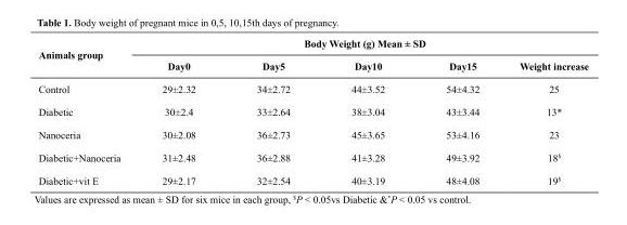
<table><thead><tr><td rowspan="2">Animals group</td><td colspan="5">Body Weight )g) Mean ± SD</td></tr><tr><td>Day0</td><td>Day5</td><td>Day10</td><td>Day15</td><td>Weight increase</td></tr></thead><tbody><tr><td>Control</td><td>29±2.32</td><td>34±2.72</td><td>44±3.52</td><td>54±4.32</td><td>25</td></tr><tr><td>Diabetic</td><td>30±2.4</td><td>33±2.64</td><td>38±3.04</td><td>43±3.44</td><td>13*</td></tr><tr><td>Nanoceria</td><td>30±2.08</td><td>36±2.73</td><td>45±3.65</td><td>53±4.16</td><td>23</td></tr><tr><td>Diabetic+Nanoceria</td><td>31±2.48</td><td>36±2.88</td><td>41±3.28</td><td>49±3.92</td><td>18$</td></tr><tr><td>Diabetic+vit E</td><td>29±2.17</td><td>32±2.54</td><td>40±3.19</td><td>48±4.08</td><td>19$</td></tr></tbody></table>